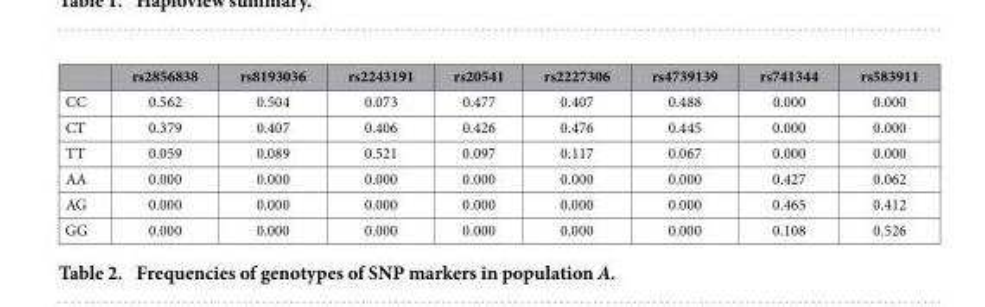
<table><thead><tr><td></td><td>rs2856838</td><td>rs8193036</td><td>rs2243191</td><td>rs20541</td><td>rs2227306</td><td>rs4739139</td><td>rs741344</td><td>rs583911</td></tr></thead><tbody><tr><td>CC</td><td>0.562</td><td>0.504</td><td>0.073</td><td>0.477</td><td>0.407</td><td>0.488</td><td>0.000</td><td>0.000</td></tr><tr><td>CT</td><td>0.379</td><td>0.407</td><td>0.406</td><td>0.426</td><td>0.476</td><td>0.445</td><td>0.000</td><td>0.000</td></tr><tr><td>TT</td><td>0.059</td><td>0.089</td><td>0.521</td><td>0.097</td><td>0.117</td><td>0.067</td><td>0.000</td><td>0.000</td></tr><tr><td>AA</td><td>0.000</td><td>0.000</td><td>0.000</td><td>0.000</td><td>0.000</td><td>0.000</td><td>0.427</td><td>0.062</td></tr><tr><td>AG</td><td>0.000</td><td>0.000</td><td>0.000</td><td>0.000</td><td>0.000</td><td>0.000</td><td>0.465</td><td>0.412</td></tr><tr><td>GG</td><td>0.000</td><td>0.000</td><td>0.000</td><td>0.000</td><td>0.000</td><td>0.000</td><td>0.108</td><td>0.526</td></tr></tbody></table>